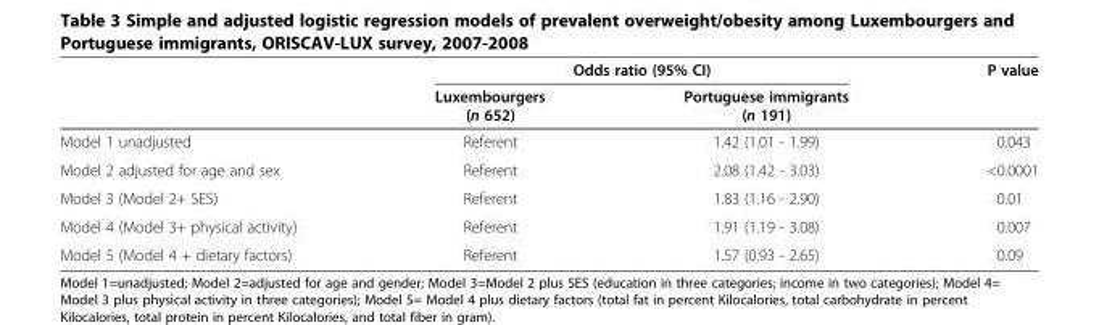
<table><thead><tr><td rowspan="2"></td><td colspan="2">Odds ratio (95% CI)</td><td rowspan="2">P value</td></tr><tr><td>Luxembourgers (n 652)</td><td>Portuguese immigrants (n 191)</td></tr></thead><tbody><tr><td>Model 1 unadjusted</td><td>Referent</td><td>1.42 (1.01 - 1.99)</td><td>0.043</td></tr><tr><td>Model 2 adjusted for age and sex</td><td>Referent</td><td>2.08 (1.42 - 3.03)</td><td>&lt;0.0001</td></tr><tr><td>Model 3 (Model 2+ SES)</td><td>Referent</td><td>1.83 (1.16 - 2.90)</td><td>0.01</td></tr><tr><td>Model 4 (Model 3+ physical activity)</td><td>Referent</td><td>1.91 (1.19 - 3.08)</td><td>0.007</td></tr><tr><td>Model 5 (Model 4 + dietary factors)</td><td>Referent</td><td>1.57 (0.93 - 2.65)</td><td>0.09</td></tr></tbody></table>